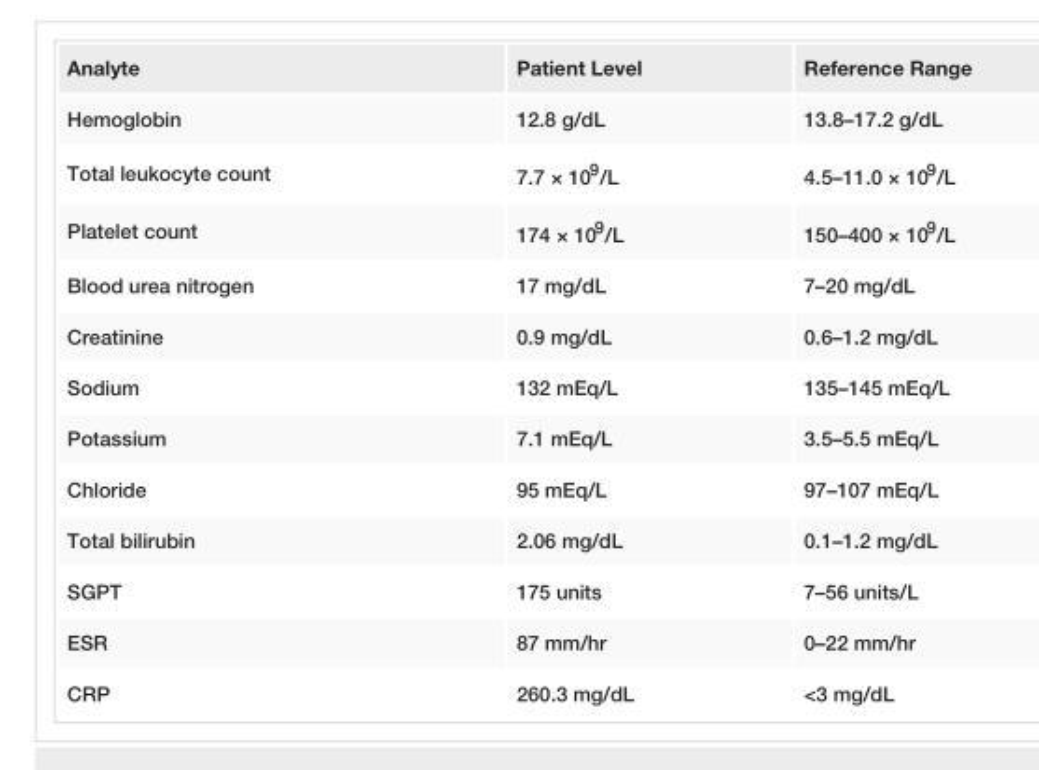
<table><tbody><tr><td>Analyte</td><td>Patient Level</td><td>Reference Range</td></tr><tr><td>Hemoglobin</td><td>12.8 g/dL</td><td>13.8–17.2 g/dL</td></tr><tr><td>Total leukocyte count</td><td>7.7 × 10<sup>9</sup>/L</td><td>4.5–11.0 × 10<sup>9</sup>/L</td></tr><tr><td>Platelet count</td><td>174 × 10<sup>9</sup>/L</td><td>150–400 × 10<sup>9</sup>/L</td></tr><tr><td>Blood urea nitrogen</td><td>17 mg/dL</td><td>7–20 mg/dL</td></tr><tr><td>Creatinine</td><td>0.9 mg/dL</td><td>0.6–1.2 mg/dL</td></tr><tr><td>Sodium</td><td>132 mEq/L</td><td>135–145 mEq/L</td></tr><tr><td>Potassium</td><td>7.1 mEq/L</td><td>3.5–5.5 mEq/L</td></tr><tr><td>Chloride</td><td>95 mEq/L</td><td>97–107 mEq/L</td></tr><tr><td>Total bilirubin</td><td>2.06 mg/dL</td><td>0.1–1.2 mg/dL</td></tr><tr><td>SGPT</td><td>175 units</td><td>7–56 units/L</td></tr><tr><td>ESR</td><td>87 mm/hr</td><td>0–22 mm/hr</td></tr><tr><td>CRP</td><td>260.3 mg/dL</td><td>&lt;3 mg/dL</td></tr></tbody></table>